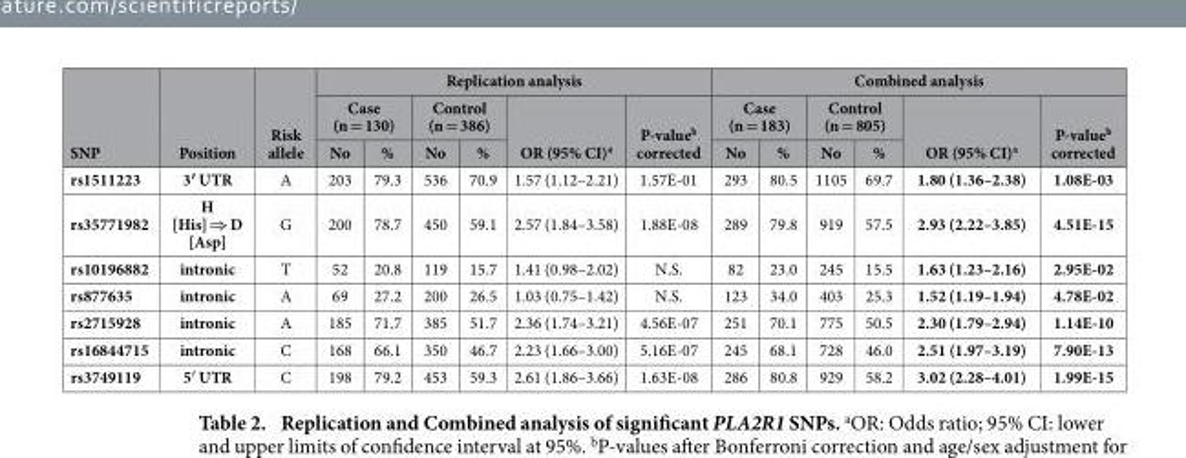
<table><thead><tr><td rowspan="3">SNP</td><td rowspan="3">Position</td><td rowspan="3">Risk allele</td><td colspan="6">Replication analysis</td><td colspan="6">Combined analysis</td></tr><tr><td colspan="2">Case (n = 130)</td><td colspan="2">Control (n = 386)</td><td rowspan="2">OR (95% CI)<sup>a</sup></td><td rowspan="2">P-value<sup>b</sup> corrected</td><td colspan="2">Case (n = 183)</td><td colspan="2">Control (n = 805)</td><td rowspan="2">OR (95% CI)<sup>a</sup></td><td rowspan="2">P-value<sup>b</sup> corrected</td></tr><tr><td>No</td><td>%</td><td>No</td><td>%</td><td>No</td><td>%</td><td>No</td><td>%</td></tr></thead><tbody><tr><td>rs1511223</td><td>3′ UTR</td><td>A</td><td>203</td><td>79.3</td><td>536</td><td>70.9</td><td>1.57 (1.12–2.21)</td><td>1.57E-01</td><td>293</td><td>80.5</td><td>1105</td><td>69.7</td><td>1.80 (1.36–2.38)</td><td>1.08E-03</td></tr><tr><td>rs35771982</td><td>H [His] ⇒ D [Asp]</td><td>G</td><td>200</td><td>78.7</td><td>450</td><td>59.1</td><td>2.57 (1.84–3.58)</td><td>1.88E-08</td><td>289</td><td>79.8</td><td>919</td><td>57.5</td><td>2.93 (2.22–3.85)</td><td>4.51E-15</td></tr><tr><td>rs10196882</td><td>intronic</td><td>T</td><td>52</td><td>20.8</td><td>119</td><td>15.7</td><td>1.41 (0.98–2.02)</td><td>N.S.</td><td>82</td><td>23.0</td><td>245</td><td>15.5</td><td>1.63 (1.23–2.16)</td><td>2.95E-02</td></tr><tr><td>rs877635</td><td>intronic</td><td>A</td><td>69</td><td>27.2</td><td>200</td><td>26.5</td><td>1.03 (0.75–1.42)</td><td>N.S.</td><td>123</td><td>34.0</td><td>403</td><td>25.3</td><td>1.52 (1.19–1.94)</td><td>4.78E-02</td></tr><tr><td>rs2715928</td><td>intronic</td><td>A</td><td>185</td><td>71.7</td><td>385</td><td>51.7</td><td>2.36 (1.74–3.21)</td><td>4.56E-07</td><td>251</td><td>70.1</td><td>775</td><td>50.5</td><td>2.30 (1.79–2.94)</td><td>1.14E-10</td></tr><tr><td>rs16844715</td><td>intronic</td><td>C</td><td>168</td><td>66.1</td><td>350</td><td>46.7</td><td>2.23 (1.66–3.00)</td><td>5.16E-07</td><td>245</td><td>68.1</td><td>728</td><td>46.0</td><td>2.51 (1.97–3.19)</td><td>7.90E-13</td></tr><tr><td>rs3749119</td><td>5′ UTR</td><td>C</td><td>198</td><td>79.2</td><td>453</td><td>59.3</td><td>2.61 (1.86–3.66)</td><td>1.63E-08</td><td>286</td><td>80.8</td><td>929</td><td>58.2</td><td>3.02 (2.28–4.01)</td><td>1.99E-15</td></tr></tbody></table>